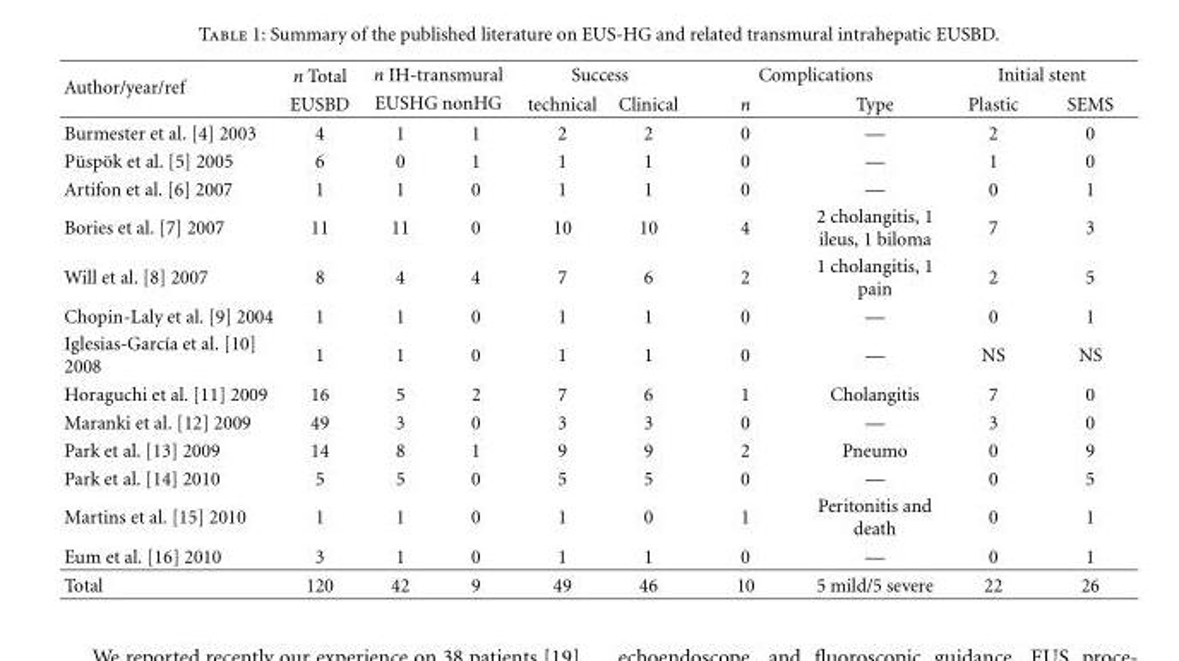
<table><thead><tr><td rowspan="3">Author/year/ref Burmester et al. [4] 2003</td><td rowspan="3">n Total EUSBD 4</td><td rowspan="2" colspan="2">n IH-transmural EUSHG nonHG</td><td colspan="2">Success</td><td colspan="2">Complications</td><td colspan="2">Initial stent</td></tr><tr><td rowspan="2">technical 2</td><td rowspan="2">Clinical 2</td><td rowspan="2">n 0</td><td rowspan="2">Type —</td><td rowspan="2">Plastic 2</td><td rowspan="2">SEMS 0</td></tr><tr><td>1</td><td>1</td></tr></thead><tbody><tr><td>P¨usp¨ok et al. [5] 2005</td><td>6</td><td>0</td><td>1</td><td>1</td><td>1</td><td>0</td><td>—</td><td>1</td><td>0</td></tr><tr><td>Artifon et al. [6] 2007</td><td>1</td><td>1</td><td>0</td><td>1</td><td>1</td><td>0</td><td>—</td><td>0</td><td>1</td></tr><tr><td>Bories et al. [7] 2007</td><td>11</td><td>11</td><td>0</td><td>10</td><td>10</td><td>4</td><td>2 cholangitis, 1 ileus, 1 biloma</td><td>7</td><td>3</td></tr><tr><td>Will et al. [8] 2007</td><td>8</td><td>4</td><td>4</td><td>7</td><td>6</td><td>2</td><td>1 cholangitis, 1 pain</td><td>2</td><td>5</td></tr><tr><td>Chopin-Laly et al. [9] 2004</td><td>1</td><td>1</td><td>0</td><td>1</td><td>1</td><td>0</td><td>—</td><td>0</td><td>1</td></tr><tr><td>Iglesias-Garc´ıa et al. [10] 2008</td><td>1</td><td>1</td><td>0</td><td>1</td><td>1</td><td>0</td><td>—</td><td>NS</td><td>NS</td></tr><tr><td>Horaguchi et al. [11] 2009</td><td>16</td><td>5</td><td>2</td><td>7</td><td>6</td><td>1</td><td>Cholangitis</td><td>7</td><td>0</td></tr><tr><td>Maranki et al. [12] 2009</td><td>49</td><td>3</td><td>0</td><td>3</td><td>3</td><td>0</td><td>—</td><td>3</td><td>0</td></tr><tr><td>Park et al. [13] 2009</td><td>14</td><td>8</td><td>1</td><td>9</td><td>9</td><td>2</td><td>Pneumo</td><td>0</td><td>9</td></tr><tr><td>Park et al. [14] 2010</td><td>5</td><td>5</td><td>0</td><td>5</td><td>5</td><td>0</td><td>—</td><td>0</td><td>5</td></tr><tr><td>Martins et al. [15] 2010</td><td>1</td><td>1</td><td>0</td><td>1</td><td>0</td><td>1</td><td>Peritonitis and death</td><td>0</td><td>1</td></tr><tr><td>Eum et al. [16] 2010</td><td>3</td><td>1</td><td>0</td><td>1</td><td>1</td><td>0</td><td>—</td><td>0</td><td>1</td></tr><tr><td>Total</td><td>120</td><td>42</td><td>9</td><td>49</td><td>46</td><td>10</td><td>5 mild/5 severe</td><td>22</td><td>26</td></tr></tbody></table>